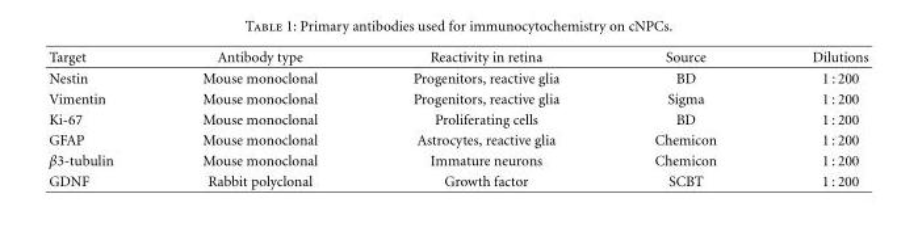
<table><thead><tr><td>Target</td><td>Antibody type</td><td>Reactivity in retina</td><td>Source</td><td>Dilutions</td></tr></thead><tbody><tr><td>Nestin</td><td>Mouse monoclonal</td><td>Progenitors, reactive glia</td><td>BD</td><td>1 : 200</td></tr><tr><td>Vimentin</td><td>Mouse monoclonal</td><td>Progenitors, reactive glia</td><td>Sigma</td><td>1 : 200</td></tr><tr><td>Ki-67</td><td>Mouse monoclonal</td><td>Proliferating cells</td><td>BD</td><td>1 : 200</td></tr><tr><td>GFAP</td><td>Mouse monoclonal</td><td>Astrocytes, reactive glia</td><td>Chemicon</td><td>1 : 200</td></tr><tr><td>β3-tubulin</td><td>Mouse monoclonal</td><td>Immature neurons</td><td>Chemicon</td><td>1 : 200</td></tr><tr><td>GDNF</td><td>Rabbit polyclonal</td><td>Growth factor</td><td>SCBT</td><td>1 : 200</td></tr></tbody></table>